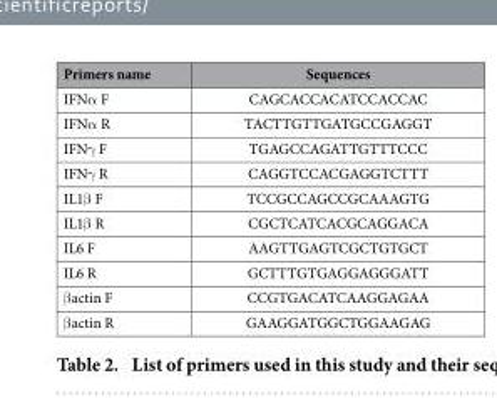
<table><thead><tr><td>Primers name</td><td>Sequences</td></tr></thead><tbody><tr><td>IFNα F</td><td>CAGCACCACATCCACCAC</td></tr><tr><td>IFNα R</td><td>TACTTGTTGATGCCGAGGT</td></tr><tr><td>IFNγ F</td><td>TGAGCCAGATTGTTTCCC</td></tr><tr><td>IFNγ R</td><td>CAGGTCCACGAGGTCTTT</td></tr><tr><td>IL1β F</td><td>TCCGCCAGCCGCAAAGTG</td></tr><tr><td>IL1β R</td><td>CGCTCATCACGCAGGACA</td></tr><tr><td>IL6 F</td><td>AAGTTGAGTCGCTGTGCT</td></tr><tr><td>IL6 R</td><td>GCTTTGTGAGGAGGGATT</td></tr><tr><td>β actin F</td><td>CCGTGACATCAAGGAGAA</td></tr><tr><td>β actin R</td><td>GAAGGATGGCTGGAAGAG</td></tr></tbody></table>